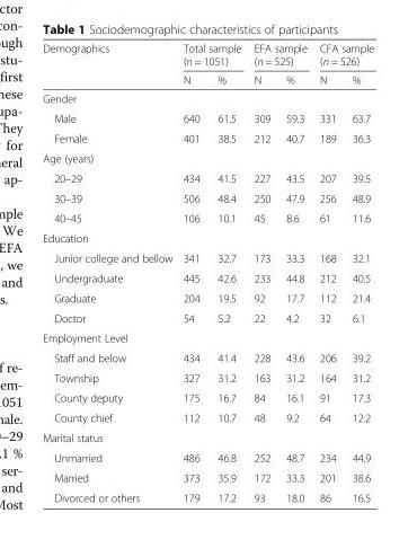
<table><thead><tr><td rowspan="2">Demographics</td><td colspan="2">Total sample (n = 1051)</td><td colspan="2">EFA sample (n = 525)</td><td colspan="2">CFA sample (n = 526)</td></tr><tr><td>N</td><td>%</td><td>N</td><td>%</td><td>N</td><td>%</td></tr></thead><tbody><tr><td colspan="7">Gender</td></tr><tr><td>Male</td><td>640</td><td>61.5</td><td>309</td><td>59.3</td><td>331</td><td>63.7</td></tr><tr><td>Female</td><td>401</td><td>38.5</td><td>212</td><td>40.7</td><td>189</td><td>36.3</td></tr><tr><td colspan="7">Age (years)</td></tr><tr><td>20–29</td><td>434</td><td>41.5</td><td>227</td><td>43.5</td><td>207</td><td>39.5</td></tr><tr><td>30–39</td><td>506</td><td>48.4</td><td>250</td><td>47.9</td><td>256</td><td>48.9</td></tr><tr><td>40–45</td><td>106</td><td>10.1</td><td>45</td><td>8.6</td><td>61</td><td>11.6</td></tr><tr><td colspan="7">Education</td></tr><tr><td>Junior college and bellow</td><td>341</td><td>32.7</td><td>173</td><td>33.3</td><td>168</td><td>32.1</td></tr><tr><td>Undergraduate</td><td>445</td><td>42.6</td><td>233</td><td>44.8</td><td>212</td><td>40.5</td></tr><tr><td>Graduate</td><td>204</td><td>19.5</td><td>92</td><td>17.7</td><td>112</td><td>21.4</td></tr><tr><td>Doctor</td><td>54</td><td>5.2</td><td>22</td><td>4.2</td><td>32</td><td>6.1</td></tr><tr><td colspan="7">Employment Level</td></tr><tr><td>Staff and below</td><td>434</td><td>41.4</td><td>228</td><td>43.6</td><td>206</td><td>39.2</td></tr><tr><td>Township</td><td>327</td><td>31.2</td><td>163</td><td>31.2</td><td>164</td><td>31.2</td></tr><tr><td>County deputy</td><td>175</td><td>16.7</td><td>84</td><td>16.1</td><td>91</td><td>17.3</td></tr><tr><td>County chief</td><td>112</td><td>10.7</td><td>48</td><td>9.2</td><td>64</td><td>12.2</td></tr><tr><td colspan="7">Marital status</td></tr><tr><td>Unmarried</td><td>486</td><td>46.8</td><td>252</td><td>48.7</td><td>234</td><td>44.9</td></tr><tr><td>Married</td><td>373</td><td>35.9</td><td>172</td><td>33.3</td><td>201</td><td>38.6</td></tr><tr><td>Divorced or others</td><td>179</td><td>17.2</td><td>93</td><td>18.0</td><td>86</td><td>16.5</td></tr></tbody></table>